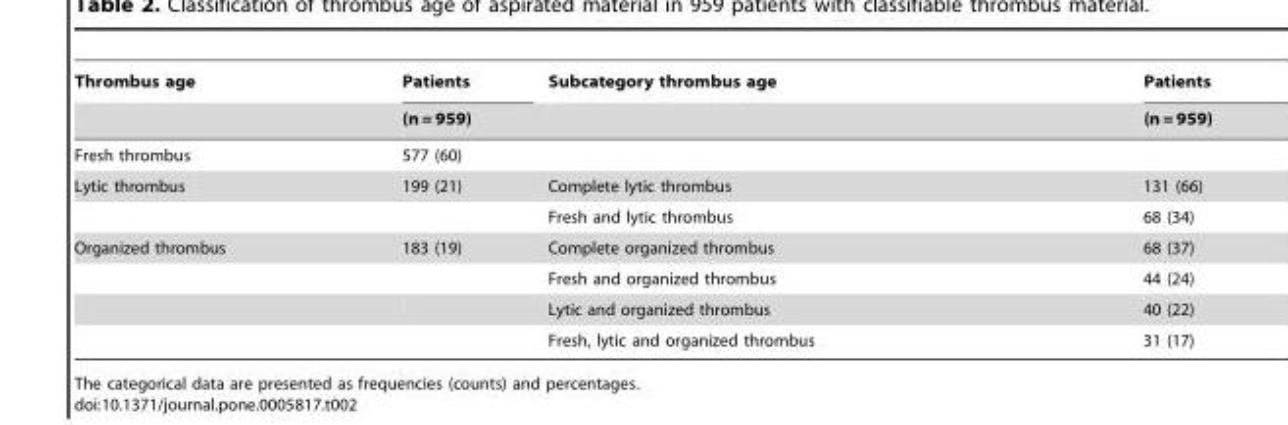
<table><thead><tr><td rowspan="2">Thrombus age</td><td rowspan="2">Patients (n = 959)</td><td rowspan="2">Subcategory thrombus age</td><td rowspan="2">Patients (n = 959)</td></tr><tr></tr></thead><tbody><tr><td>Fresh thrombus</td><td>577 (60)</td><td></td><td></td></tr><tr><td rowspan="2">Lytic thrombus</td><td>199 (21)</td><td>Complete lytic thrombus</td><td>131 (66)</td></tr><tr><td></td><td>Fresh and lytic thrombus</td><td>68 (34)</td></tr><tr><td rowspan="4">Organized thrombus</td><td>183 (19)</td><td>Complete organized thrombus</td><td>68 (37)</td></tr><tr><td></td><td>Fresh and organized thrombus</td><td>44 (24)</td></tr><tr><td></td><td>Lytic and organized thrombus</td><td>40 (22)</td></tr><tr><td></td><td>Fresh, lytic and organized thrombus</td><td>31 (17)</td></tr></tbody></table>